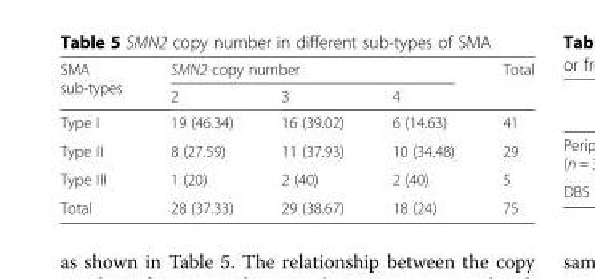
<table><thead><tr><td rowspan="2">SMA sub-types</td><td colspan="3">SMN2 copy number</td><td rowspan="2">Total</td></tr><tr><td>2</td><td>3</td><td>4</td></tr></thead><tbody><tr><td>Type I</td><td>19 (46.34)</td><td>16 (39.02)</td><td>6 (14.63)</td><td>41</td></tr><tr><td>Type II</td><td>8 (27.59)</td><td>11 (37.93)</td><td>10 (34.48)</td><td>29</td></tr><tr><td>Type III</td><td>1 (20)</td><td>2 (40)</td><td>2 (40)</td><td>5</td></tr><tr><td>Total</td><td>28 (37.33)</td><td>29 (38.67)</td><td>18 (24)</td><td>75</td></tr></tbody></table>